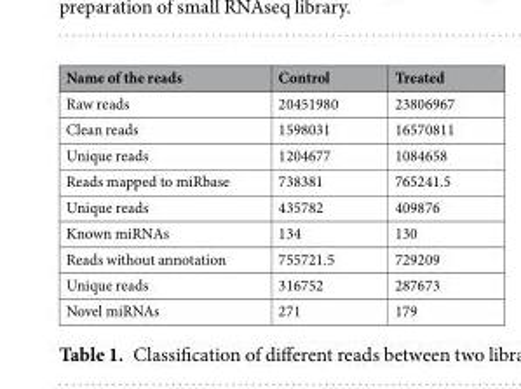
<table><thead><tr><td>Name of the reads</td><td>Control</td><td>Treated</td></tr></thead><tbody><tr><td>Raw reads</td><td>20451980</td><td>23806967</td></tr><tr><td>Clean reads</td><td>1598031</td><td>16570811</td></tr><tr><td>Unique reads</td><td>1204677</td><td>1084658</td></tr><tr><td>Reads mapped to miRbase</td><td>738381</td><td>765241.5</td></tr><tr><td>Unique reads</td><td>435782</td><td>409876</td></tr><tr><td>Known miRNAs</td><td>134</td><td>130</td></tr><tr><td>Reads without annotation</td><td>755721.5</td><td>729209</td></tr><tr><td>Unique reads</td><td>316752</td><td>287673</td></tr><tr><td>Novel miRNAs</td><td>271</td><td>179</td></tr></tbody></table>